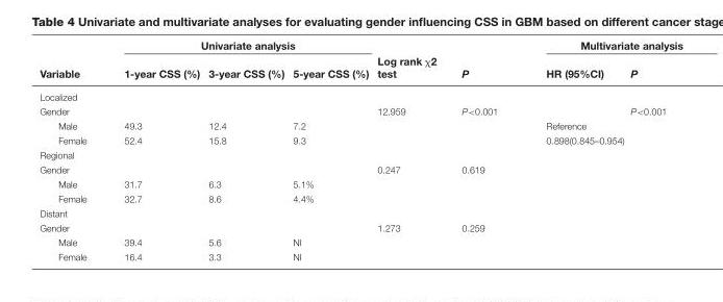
<table><thead><tr><td rowspan="2">Variable</td><td colspan="3">Univariate analysis</td><td rowspan="2">Log rank χ2 test</td><td rowspan="2">P</td><td colspan="2">Multivariate analysis</td></tr><tr><td>1-year CSS (%)</td><td>3-year CSS (%)</td><td>5-year CSS (%)</td><td>HR (95%CI)</td><td>P</td></tr></thead><tbody><tr><td colspan="8">Localized</td></tr><tr><td>Gender</td><td></td><td></td><td></td><td>12.959</td><td>P&lt;0.001</td><td></td><td>P&lt;0.001</td></tr><tr><td>Male</td><td>49.3</td><td>12.4</td><td>7.2</td><td></td><td></td><td>Reference</td><td></td></tr><tr><td>Female</td><td>52.4</td><td>15.8</td><td>9.3</td><td></td><td></td><td>0.898(0.845–0.954)</td><td></td></tr><tr><td colspan="8">Regional</td></tr><tr><td>Gender</td><td></td><td></td><td></td><td>0.247</td><td>0.619</td><td></td><td></td></tr><tr><td>Male</td><td>31.7</td><td>6.3</td><td>5.1%</td><td></td><td></td><td></td><td></td></tr><tr><td>Female</td><td>32.7</td><td>8.6</td><td>4.4%</td><td></td><td></td><td></td><td></td></tr><tr><td colspan="8">Distant</td></tr><tr><td>Gender</td><td></td><td></td><td></td><td>1.273</td><td>0.259</td><td></td><td></td></tr><tr><td>Male</td><td>39.4</td><td>5.6</td><td>NI</td><td></td><td></td><td></td><td></td></tr><tr><td>Female</td><td>16.4</td><td>3.3</td><td>NI</td><td></td><td></td><td></td><td></td></tr></tbody></table>